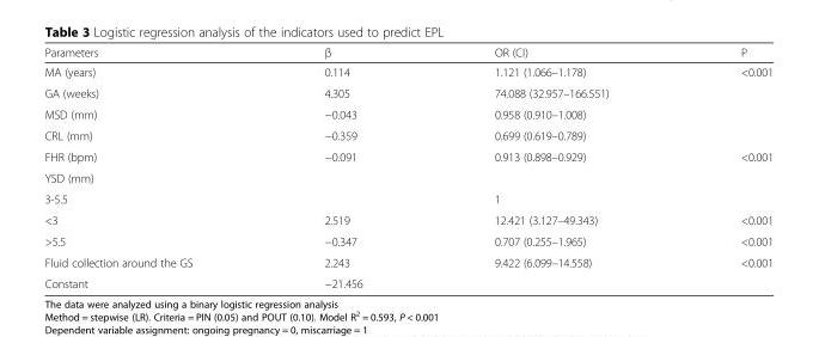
<table><thead><tr><td>Parameters</td><td>β</td><td>OR (CI)</td><td>P</td></tr></thead><tbody><tr><td>MA (years)</td><td>0.114</td><td>1.121 (1.066–1.178)</td><td>&lt;0.001</td></tr><tr><td>GA (weeks)</td><td>4.305</td><td>74.088 (32.957–166.551)</td><td></td></tr><tr><td>MSD (mm)</td><td>−0.043</td><td>0.958 (0.910–1.008)</td><td></td></tr><tr><td>CRL (mm)</td><td>−0.359</td><td>0.699 (0.619–0.789)</td><td></td></tr><tr><td>FHR (bpm)</td><td>−0.091</td><td>0.913 (0.898–0.929)</td><td>&lt;0.001</td></tr><tr><td colspan="4">YSD (mm)</td></tr><tr><td>3-5.5</td><td></td><td>1</td><td></td></tr><tr><td>&lt;3</td><td>2.519</td><td>12.421 (3.127–49.343)</td><td>&lt;0.001</td></tr><tr><td>&gt;5.5</td><td>−0.347</td><td>0.707 (0.255–1.965)</td><td>&lt;0.001</td></tr><tr><td>Fluid collection around the GS</td><td>2.243</td><td>9.422 (6.099–14.558)</td><td>&lt;0.001</td></tr><tr><td>Constant</td><td>−21.456</td><td></td><td></td></tr></tbody></table>